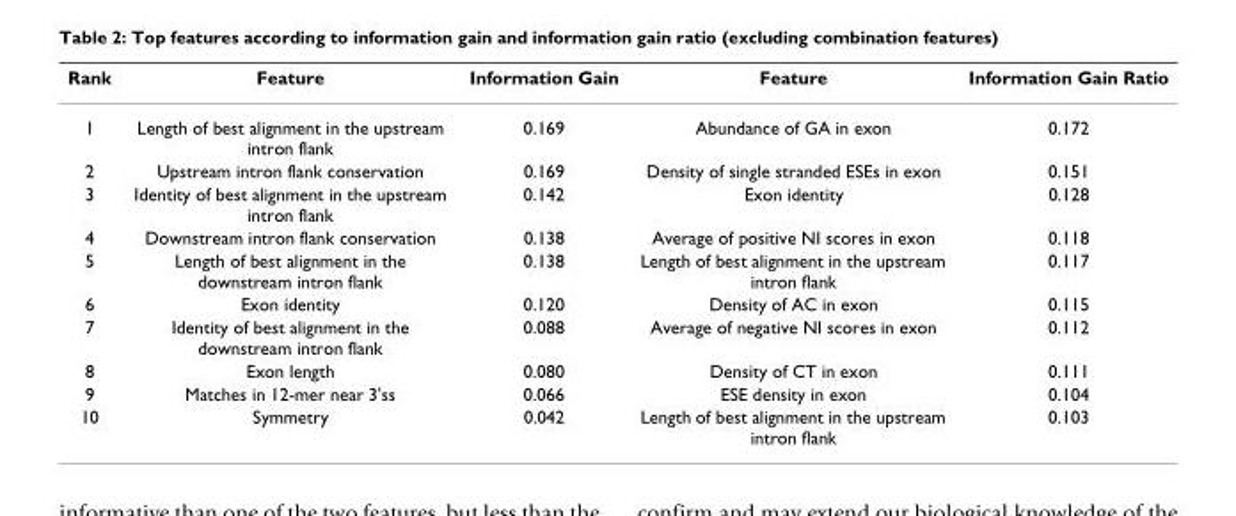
<table><thead><tr><td>Rank</td><td>Feature</td><td>Information Gain</td><td>Feature</td><td>Information Gain Ratio</td></tr></thead><tbody><tr><td>1</td><td>Length of best alignment in the upstream intron flank</td><td>0.169</td><td>Abundance of GA in exon</td><td>0.172</td></tr><tr><td>2</td><td>Upstream intron flank conservation</td><td>0.169</td><td>Density of single stranded ESEs in exon</td><td>0.151</td></tr><tr><td>3</td><td>Identity of best alignment in the upstream intron flank</td><td>0.142</td><td>Exon identity</td><td>0.128</td></tr><tr><td>4</td><td>Downstream intron flank conservation</td><td>0.138</td><td>Average of positive NI scores in exon</td><td>0.118</td></tr><tr><td>5</td><td>Length of best alignment in the downstream intron flank</td><td>0.138</td><td>Length of best alignment in the upstream intron flank</td><td>0.117</td></tr><tr><td>6</td><td>Exon identity</td><td>0.120</td><td>Density of AC in exon</td><td>0.115</td></tr><tr><td>7</td><td>Identity of best alignment in the downstream intron flank</td><td>0.088</td><td>Average of negative NI scores in exon</td><td>0.112</td></tr><tr><td>8</td><td>Exon length</td><td>0.080</td><td>Density of CT in exon</td><td>0.111</td></tr><tr><td>9</td><td>Matches in 12-mer near 3&#x27;ss</td><td>0.066</td><td>ESE density in exon</td><td>0.104</td></tr><tr><td>10</td><td>Symmetry</td><td>0.042</td><td>Length of best alignment in the upstream intron flank</td><td>0.103</td></tr></tbody></table>